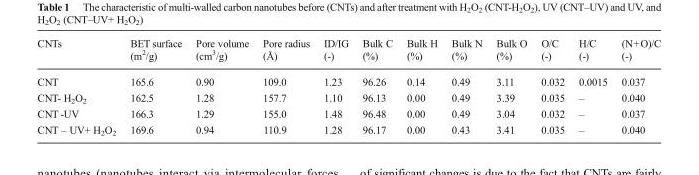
<table><thead><tr><td>CNTs</td><td>BET surface (m<sup>2</sup>/g)</td><td>Pore volume (cm<sup>3</sup>/g)</td><td>Pore radius (Å)</td><td>ID/IG (-)</td><td>Bulk C (%)</td><td>Bulk H (%)</td><td>Bulk N (%)</td><td>Bulk O (%)</td><td>O/C (-)</td><td>H/C (-)</td><td>(N+O)/C (-)</td></tr></thead><tbody><tr><td>CNT</td><td>165.6</td><td>0.90</td><td>109.0</td><td>1.23</td><td>96.26</td><td>0.14</td><td>0.49</td><td>3.11</td><td>0.032</td><td>0.0015</td><td>0.037</td></tr><tr><td>CNT- H<sub>2</sub>O<sub>2</sub></td><td>162.5</td><td>1.28</td><td>157.7</td><td>1.10</td><td>96.13</td><td>0.00</td><td>0.49</td><td>3.39</td><td>0.035</td><td>–</td><td>0.040</td></tr><tr><td>CNT -UV</td><td>166.3</td><td>1.29</td><td>155.0</td><td>1.48</td><td>96.48</td><td>0.00</td><td>0.49</td><td>3.04</td><td>0.032</td><td>–</td><td>0.037</td></tr><tr><td>CNT – UV+ H<sub>2</sub>O<sub>2</sub></td><td>169.6</td><td>0.94</td><td>110.9</td><td>1.28</td><td>96.17</td><td>0.00</td><td>0.43</td><td>3.41</td><td>0.035</td><td>–</td><td>0.040</td></tr></tbody></table>